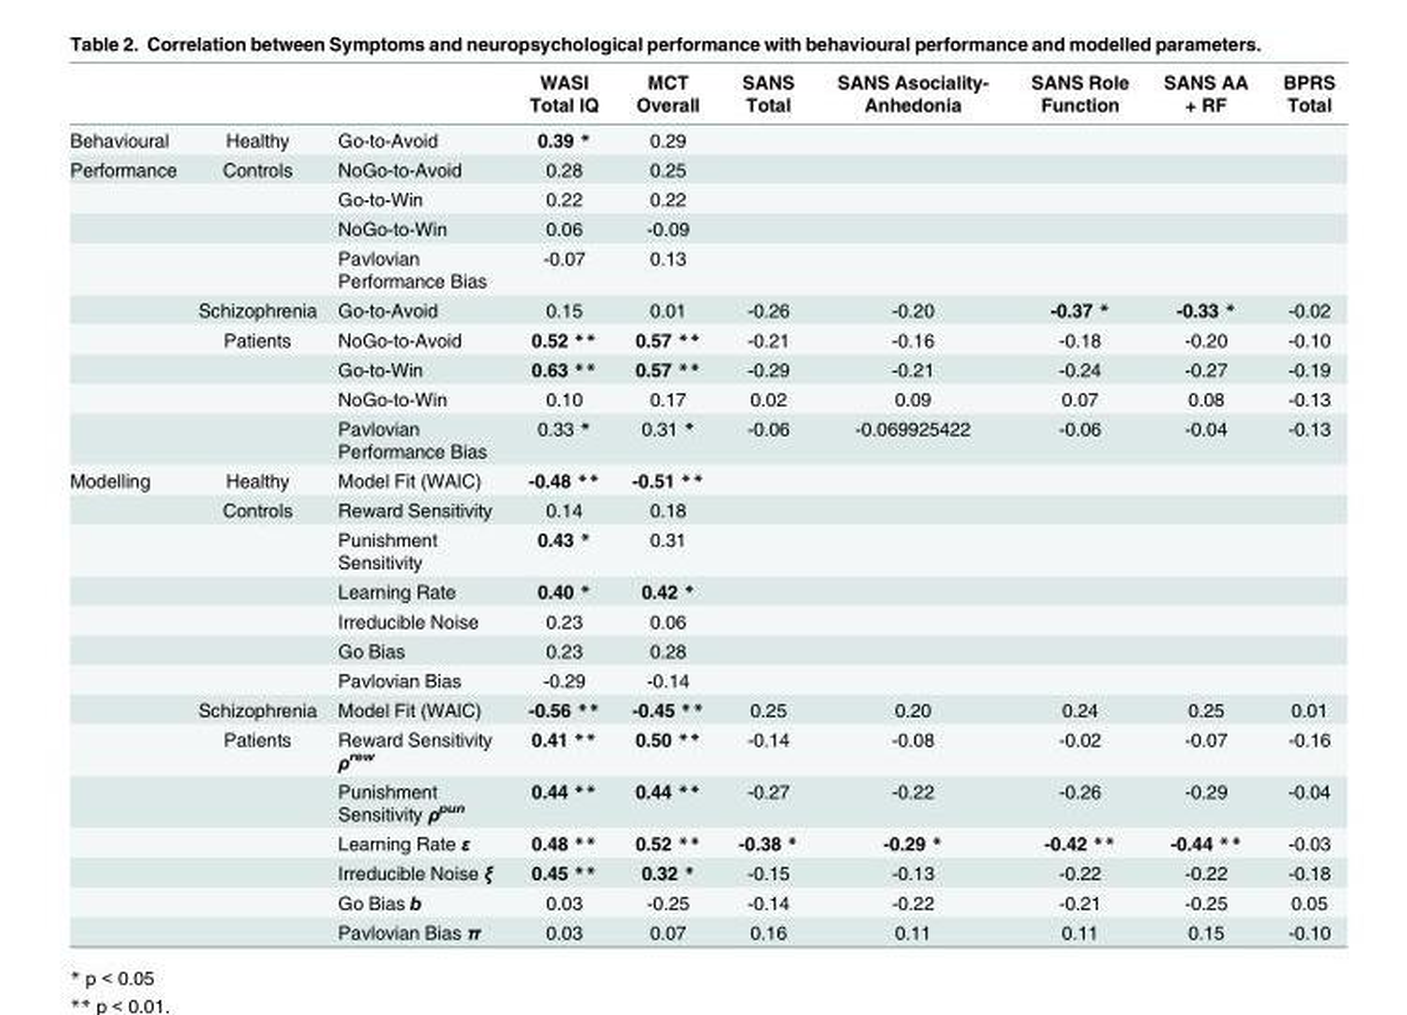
<table><thead><tr><td></td><td></td><td></td><td>WASI Total IQ</td><td>MCT Overall</td><td>SANS Total</td><td>SANS Asociality- Anhedonia</td><td>SANS Role Function</td><td>SANS AA + RF</td><td>BPRS Total</td></tr></thead><tbody><tr><td>Behavioural</td><td>Healthy</td><td>Go-to-Avoid</td><td>0.39 *</td><td>0.29</td><td></td><td></td><td></td><td></td><td></td></tr><tr><td rowspan="9">Performance</td><td>Controls</td><td>NoGo-to-Avoid</td><td>0.28</td><td>0.25</td><td></td><td></td><td></td><td></td><td></td></tr><tr><td></td><td>Go-to-Win</td><td>0.22</td><td>0.22</td><td></td><td></td><td></td><td></td><td></td></tr><tr><td></td><td>NoGo-to-Win</td><td>0.06</td><td>-0.09</td><td></td><td></td><td></td><td></td><td></td></tr><tr><td></td><td>Pavlovian Performance Bias</td><td>-0.07</td><td>0.13</td><td></td><td></td><td></td><td></td><td></td></tr><tr><td>Schizophrenia</td><td>Go-to-Avoid</td><td>0.15</td><td>0.01</td><td>-0.26</td><td>-0.20</td><td>-0.37 *</td><td>-0.33 *</td><td>-0.02</td></tr><tr><td>Patients</td><td>NoGo-to-Avoid</td><td>0.52 **</td><td>0.57 **</td><td>-0.21</td><td>-0.16</td><td>-0.18</td><td>-0.20</td><td>-0.10</td></tr><tr><td></td><td>Go-to-Win</td><td>0.63 **</td><td>0.57 **</td><td>-0.29</td><td>-0.21</td><td>-0.24</td><td>-0.27</td><td>-0.19</td></tr><tr><td></td><td>NoGo-to-Win</td><td>0.10</td><td>0.17</td><td>0.02</td><td>0.09</td><td>0.07</td><td>0.08</td><td>-0.13</td></tr><tr><td></td><td>Pavlovian Performance Bias</td><td>0.33 *</td><td>0.31 *</td><td>-0.06</td><td>-0.069925422</td><td>-0.06</td><td>-0.04</td><td>-0.13</td></tr><tr><td rowspan="14">Modelling</td><td>Healthy</td><td>Model Fit (WAIC)</td><td>-0.48 **</td><td>-0.51 **</td><td></td><td></td><td></td><td></td><td></td></tr><tr><td>Controls</td><td>Reward Sensitivity</td><td>0.14</td><td>0.18</td><td></td><td></td><td></td><td></td><td></td></tr><tr><td></td><td>Punishment Sensitivity</td><td>0.43 *</td><td>0.31</td><td></td><td></td><td></td><td></td><td></td></tr><tr><td></td><td>Learning Rate</td><td>0.40 *</td><td>0.42 *</td><td></td><td></td><td></td><td></td><td></td></tr><tr><td></td><td>Irreducible Noise</td><td>0.23</td><td>0.06</td><td></td><td></td><td></td><td></td><td></td></tr><tr><td></td><td>Go Bias</td><td>0.23</td><td>0.28</td><td></td><td></td><td></td><td></td><td></td></tr><tr><td></td><td>Pavlovian Bias</td><td>-0.29</td><td>-0.14</td><td></td><td></td><td></td><td></td><td></td></tr><tr><td>Schizophrenia</td><td>Model Fit (WAIC)</td><td>-0.56 **</td><td>-0.45 **</td><td>0.25</td><td>0.20</td><td>0.24</td><td>0.25</td><td>0.01</td></tr><tr><td>Patients</td><td>Reward Sensitivity ρ<sup>rew</sup></td><td>0.41 **</td><td>0.50 **</td><td>-0.14</td><td>-0.08</td><td>-0.02</td><td>-0.07</td><td>-0.16</td></tr><tr><td></td><td>Punishment Sensitivity ρ<sup>pun</sup></td><td>0.44 **</td><td>0.44 **</td><td>-0.27</td><td>-0.22</td><td>-0.26</td><td>-0.29</td><td>-0.04</td></tr><tr><td></td><td>Learning Rate ε</td><td>0.48 **</td><td>0.52 **</td><td>-0.38 *</td><td>-0.29 *</td><td>-0.42 **</td><td>-0.44 **</td><td>-0.03</td></tr><tr><td></td><td>Irreducible Noise ξ</td><td>0.45 **</td><td>0.32 *</td><td>-0.15</td><td>-0.13</td><td>-0.22</td><td>-0.22</td><td>-0.18</td></tr><tr><td></td><td>Go Bias b</td><td>0.03</td><td>-0.25</td><td>-0.14</td><td>-0.22</td><td>-0.21</td><td>-0.25</td><td>0.05</td></tr><tr><td></td><td>Pavlovian Bias π</td><td>0.03</td><td>0.07</td><td>0.16</td><td>0.11</td><td>0.11</td><td>0.15</td><td>-0.10</td></tr></tbody></table>